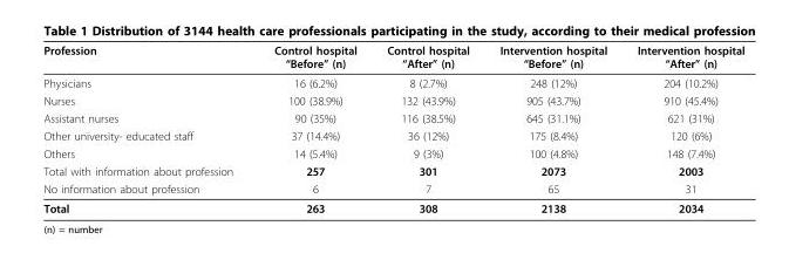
<table><thead><tr><td>Profession</td><td>Control hospital “Before” (n)</td><td>Control hospital “After” (n)</td><td>Intervention hospital “Before” (n)</td><td>Intervention hospital “After” (n)</td></tr></thead><tbody><tr><td>Physicians</td><td>16 (6.2%)</td><td>8 (2.7%)</td><td>248 (12%)</td><td>204 (10.2%)</td></tr><tr><td>Nurses</td><td>100 (38.9%)</td><td>132 (43.9%)</td><td>905 (43.7%)</td><td>910 (45.4%)</td></tr><tr><td>Assistant nurses</td><td>90 (35%)</td><td>116 (38.5%)</td><td>645 (31.1%)</td><td>621 (31%)</td></tr><tr><td>Other university- educated staff</td><td>37 (14.4%)</td><td>36 (12%)</td><td>175 (8.4%)</td><td>120 (6%)</td></tr><tr><td>Others</td><td>14 (5.4%)</td><td>9 (3%)</td><td>100 (4.8%)</td><td>148 (7.4%)</td></tr><tr><td>Total with information about profession</td><td>257</td><td>301</td><td>2073</td><td>2003</td></tr><tr><td>No information about profession</td><td>6</td><td>7</td><td>65</td><td>31</td></tr><tr><td>Total</td><td>263</td><td>308</td><td>2138</td><td>2034</td></tr></tbody></table>